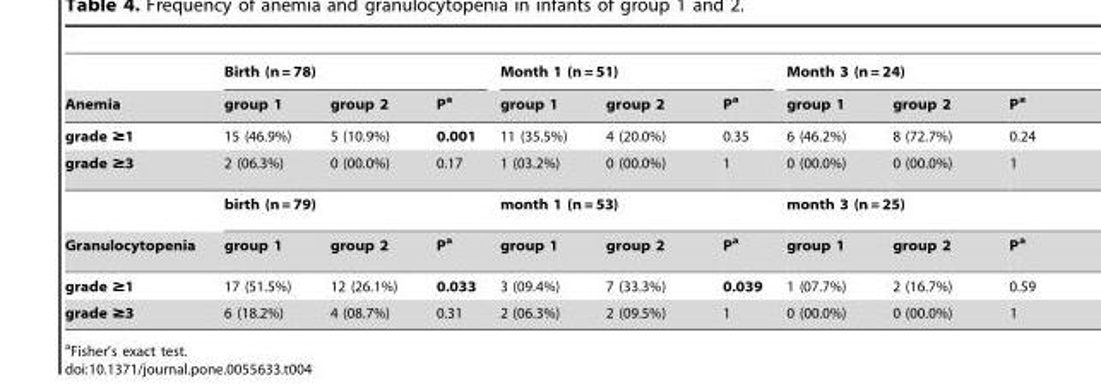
<table><thead><tr><td rowspan="2">Anemia</td><td colspan="3">Birth (n = 78)</td><td colspan="3">Month 1 (n = 51)</td><td colspan="3">Month 3 (n = 24)</td></tr><tr><td>group 1</td><td>group 2</td><td>P<sup>a</sup></td><td>group 1</td><td>group 2</td><td>P<sup>a</sup></td><td>group 1</td><td>group 2</td><td>P<sup>a</sup></td></tr></thead><tbody><tr><td>grade ≥1</td><td>15 (46.9%)</td><td>5 (10.9%)</td><td>0.001</td><td>11 (35.5%)</td><td>4 (20.0%)</td><td>0.35</td><td>6 (46.2%)</td><td>8 (72.7%)</td><td>0.24</td></tr><tr><td rowspan="2">grade ≥3</td><td>2 (06.3%)</td><td>0 (00.0%)</td><td>0.17</td><td>1 (03.2%)</td><td>0 (00.0%)</td><td>1</td><td>0 (00.0%)</td><td>0 (00.0%)</td><td>1</td></tr><tr><td colspan="3">birth (n = 79)</td><td colspan="3">month 1 (n = 53)</td><td colspan="3">month 3 (n = 25)</td></tr><tr><td>Granulocytopenia</td><td>group 1</td><td>group 2</td><td>Pa</td><td>group 1</td><td>group 2</td><td>Pa</td><td>group 1</td><td>group 2</td><td>Pa</td></tr><tr><td>grade ≥1</td><td>17 (51.5%)</td><td>12 (26.1%)</td><td>0.033</td><td>3 (09.4%)</td><td>7 (33.3%)</td><td>0.039</td><td>1 (07.7%)</td><td>2 (16.7%)</td><td>0.59</td></tr><tr><td>grade ≥3</td><td>6 (18.2%)</td><td>4 (08.7%)</td><td>0.31</td><td>2 (06.3%)</td><td>2 (09.5%)</td><td>1</td><td>0 (00.0%)</td><td>0 (00.0%)</td><td>1</td></tr></tbody></table>